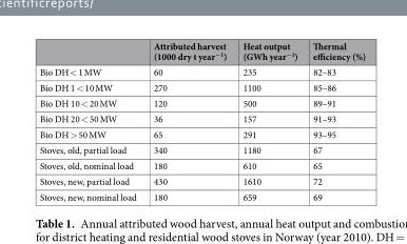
<table><thead><tr><td></td><td>Attributed harvest (1000 dry t year<sup>−1</sup>)</td><td>Heat output (GWh year<sup>−1</sup>)</td><td>Thermal efficiency (%)</td></tr></thead><tbody><tr><td>Bio DH &lt; 1 MW</td><td>60</td><td>235</td><td>82–83</td></tr><tr><td>Bio DH 1 &lt; 10 MW</td><td>270</td><td>1100</td><td>85–86</td></tr><tr><td>Bio DH 10 &lt; 20 MW</td><td>120</td><td>500</td><td>89–91</td></tr><tr><td>Bio DH 20 &lt; 50 MW</td><td>36</td><td>157</td><td>91–93</td></tr><tr><td>Bio DH &gt; 50 MW</td><td>65</td><td>291</td><td>93–95</td></tr><tr><td>Stoves, old, partial load</td><td>340</td><td>1180</td><td>67</td></tr><tr><td>Stoves, old, nominal load</td><td>180</td><td>610</td><td>65</td></tr><tr><td>Stoves, new, partial load</td><td>430</td><td>1610</td><td>72</td></tr><tr><td>Stoves, new, nominal load</td><td>180</td><td>659</td><td>69</td></tr></tbody></table>